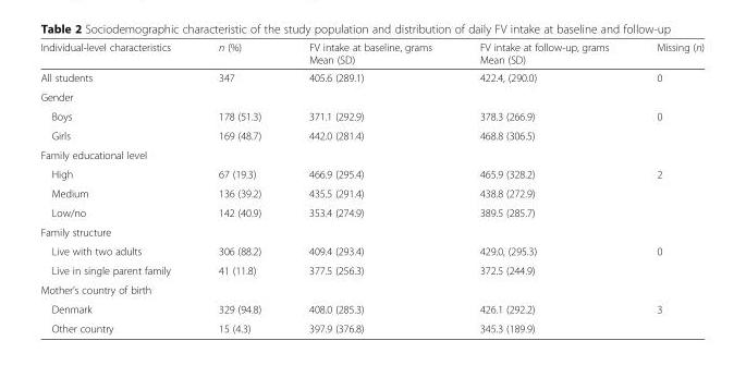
<table><thead><tr><td>Individual-level characteristics</td><td>n (%)</td><td>FV intake at baseline, grams Mean (SD)</td><td>FV intake at follow-up, grams Mean (SD)</td><td>Missing (n)</td></tr></thead><tbody><tr><td>All students</td><td>347</td><td>405.6 (289.1)</td><td>422.4, (290.0)</td><td>0</td></tr><tr><td colspan="5">Gender</td></tr><tr><td>Boys</td><td>178 (51.3)</td><td>371.1 (292.9)</td><td>378.3 (266.9)</td><td rowspan="2">0</td></tr><tr><td>Girls</td><td>169 (48.7)</td><td>442.0 (281.4)</td><td>468.8 (306.5)</td></tr><tr><td colspan="5">Family educational level</td></tr><tr><td>High</td><td>67 (19.3)</td><td>466.9 (295.4)</td><td>465.9 (328.2)</td><td rowspan="3">2</td></tr><tr><td>Medium</td><td>136 (39.2)</td><td>435.5 (291.4)</td><td>438.8 (272.9)</td></tr><tr><td>Low/no</td><td>142 (40.9)</td><td>353.4 (274.9)</td><td>389.5 (285.7)</td></tr><tr><td colspan="5">Family structure</td></tr><tr><td>Live with two adults</td><td>306 (88.2)</td><td>409.4 (293.4)</td><td>429.0, (295.3)</td><td rowspan="2">0</td></tr><tr><td>Live in single parent family</td><td>41 (11.8)</td><td>377.5 (256.3)</td><td>372.5 (244.9)</td></tr><tr><td colspan="5">Mother’s country of birth</td></tr><tr><td>Denmark</td><td>329 (94.8)</td><td>408.0 (285.3)</td><td>426.1 (292.2)</td><td rowspan="2">3</td></tr><tr><td>Other country</td><td>15 (4.3)</td><td>397.9 (376.8)</td><td>345.3 (189.9)</td></tr></tbody></table>